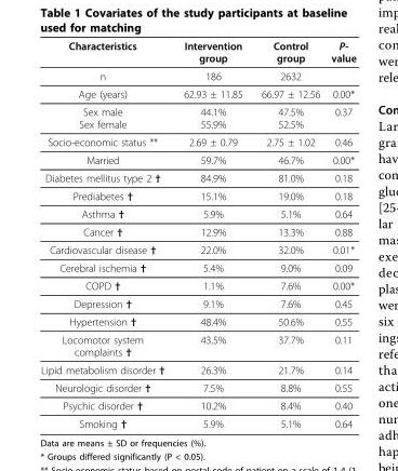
<table><thead><tr><td>Characteristics</td><td>Intervention group</td><td>Control group</td><td>P- value</td></tr></thead><tbody><tr><td>n</td><td>186</td><td>2632</td><td></td></tr><tr><td>Age (years)</td><td>62.93 ± 11.85</td><td>66.97 ± 12.56</td><td>0.00*</td></tr><tr><td>Sex male Sex female</td><td>44.1% 55.9%</td><td>47.5% 52.5%</td><td>0.37</td></tr><tr><td>Socio-economic status **</td><td>2.69 ± 0.79</td><td>2.75 ± 1.02</td><td>0.46</td></tr><tr><td>Married</td><td>59.7%</td><td>46.7%</td><td>0.00*</td></tr><tr><td>Diabetes mellitus type 2 †</td><td>84.9%</td><td>81.0%</td><td>0.18</td></tr><tr><td>Prediabetes †</td><td>15.1%</td><td>19.0%</td><td>0.18</td></tr><tr><td>Asthma †</td><td>5.9%</td><td>5.1%</td><td>0.64</td></tr><tr><td>Cancer †</td><td>12.9%</td><td>13.3%</td><td>0.88</td></tr><tr><td>Cardiovascular disease †</td><td>22.0%</td><td>32.0%</td><td>0.01*</td></tr><tr><td>Cerebral ischemia †</td><td>5.4%</td><td>9.0%</td><td>0.09</td></tr><tr><td>COPD †</td><td>1.1%</td><td>7.6%</td><td>0.00*</td></tr><tr><td>Depression †</td><td>9.1%</td><td>7.6%</td><td>0.45</td></tr><tr><td>Hypertension †</td><td>48.4%</td><td>50.6%</td><td>0.55</td></tr><tr><td>Locomotor system complaints †</td><td>43.5%</td><td>37.7%</td><td>0.11</td></tr><tr><td>Lipid metabolism disorder †</td><td>26.3%</td><td>21.7%</td><td>0.14</td></tr><tr><td>Neurologic disorder †</td><td>7.5%</td><td>8.8%</td><td>0.55</td></tr><tr><td>Psychic disorder †</td><td>10.2%</td><td>8.4%</td><td>0.40</td></tr><tr><td>Smoking †</td><td>5.9%</td><td>5.1%</td><td>0.64</td></tr></tbody></table>